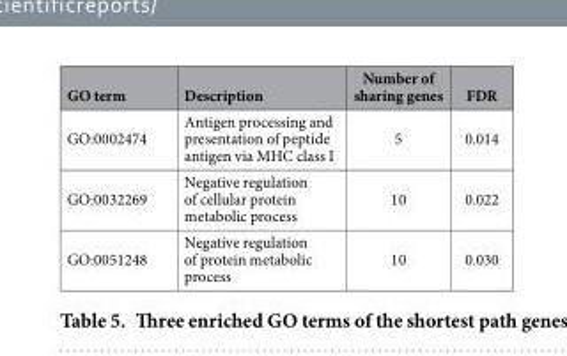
<table><thead><tr><td>GO term</td><td>Description</td><td>Number of sharing genes</td><td>FDR</td></tr></thead><tbody><tr><td>GO:0002474</td><td>Antigen processing and presentation of peptide antigen via MHC class I</td><td>5</td><td>0.014</td></tr><tr><td>GO:0032269</td><td>Negative regulation of cellular protein metabolic process</td><td>10</td><td>0.022</td></tr><tr><td>GO:0051248</td><td>Negative regulation of protein metabolic process</td><td>10</td><td>0.030</td></tr></tbody></table>